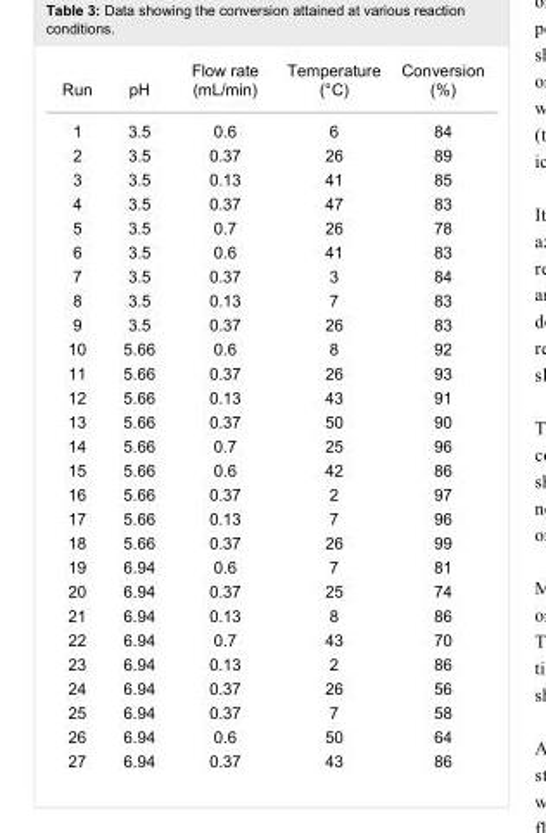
<table><tbody><tr><td>Run</td><td>pH</td><td>Flow rate (mL/min)</td><td>Temperature (°C)</td><td>Conversion (%)</td></tr><tr><td>1</td><td>3.5</td><td>0.6</td><td>6</td><td>84</td></tr><tr><td>2</td><td>3.5</td><td>0.37</td><td>26</td><td>89</td></tr><tr><td>3</td><td>3.5</td><td>0.13</td><td>41</td><td>85</td></tr><tr><td>4</td><td>3.5</td><td>0.37</td><td>47</td><td>83</td></tr><tr><td>5</td><td>3.5</td><td>0.7</td><td>26</td><td>78</td></tr><tr><td>6</td><td>3.5</td><td>0.6</td><td>41</td><td>83</td></tr><tr><td>7</td><td>3.5</td><td>0.37</td><td>3</td><td>84</td></tr><tr><td>8</td><td>3.5</td><td>0.13</td><td>7</td><td>83</td></tr><tr><td>9</td><td>3.5</td><td>0.37</td><td>26</td><td>83</td></tr><tr><td>10</td><td>5.66</td><td>0.6</td><td>8</td><td>92</td></tr><tr><td>11</td><td>5.66</td><td>0.37</td><td>26</td><td>93</td></tr><tr><td>12</td><td>5.66</td><td>0.13</td><td>43</td><td>91</td></tr><tr><td>13</td><td>5.66</td><td>0.37</td><td>50</td><td>90</td></tr><tr><td>14</td><td>5.66</td><td>0.7</td><td>25</td><td>96</td></tr><tr><td>15</td><td>5.66</td><td>0.6</td><td>42</td><td>86</td></tr><tr><td>16</td><td>5.66</td><td>0.37</td><td>2</td><td>97</td></tr><tr><td>17</td><td>5.66</td><td>0.13</td><td>7</td><td>96</td></tr><tr><td>18</td><td>5.66</td><td>0.37</td><td>26</td><td>99</td></tr><tr><td>19</td><td>6.94</td><td>0.6</td><td>7</td><td>81</td></tr><tr><td>20</td><td>6.94</td><td>0.37</td><td>25</td><td>74</td></tr><tr><td>21</td><td>6.94</td><td>0.13</td><td>8</td><td>86</td></tr><tr><td>22</td><td>6.94</td><td>0.7</td><td>43</td><td>70</td></tr><tr><td>23</td><td>6.94</td><td>0.13</td><td>2</td><td>86</td></tr><tr><td>24</td><td>6.94</td><td>0.37</td><td>26</td><td>56</td></tr><tr><td>25</td><td>6.94</td><td>0.37</td><td>7</td><td>58</td></tr><tr><td>26</td><td>6.94</td><td>0.6</td><td>50</td><td>64</td></tr><tr><td>27</td><td>6.94</td><td>0.37</td><td>43</td><td>86</td></tr></tbody></table>